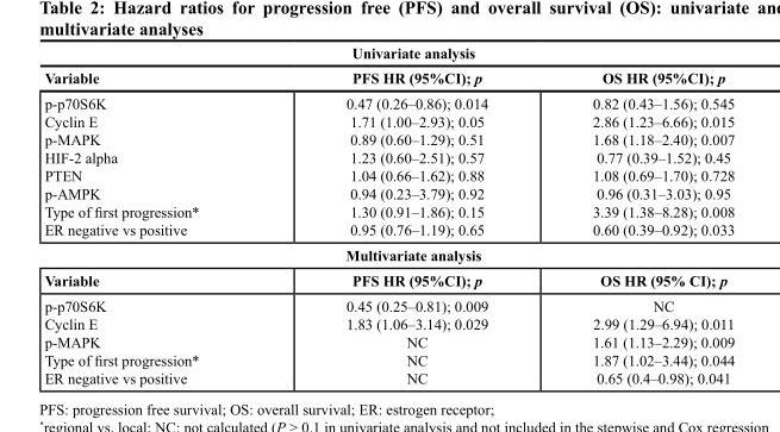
<table><thead><tr><td colspan="3">Univariate analysis</td></tr><tr><td>Variable</td><td>PFS HR (95%CI); p</td><td>OS HR (95%CI); p</td></tr></thead><tbody><tr><td>p-p70S6K Cyclin E p-MAPK HIF-2 alpha PTEN p-AMPK Type of first progression* ER negative vs positive</td><td>0.47 (0.26–0.86); 0.014 1.71 (1.00–2.93); 0.05 0.89 (0.60–1.29); 0.51 1.23 (0.60–2.51); 0.57 1.04 (0.66–1.62); 0.88 0.94 (0.23–3.79); 0.92 1.30 (0.91–1.86); 0.15 0.95 (0.76–1.19); 0.65</td><td>0.82 (0.43–1.56); 0.545 2.86 (1.23–6.66); 0.015 1.68 (1.18–2.40); 0.007 0.77 (0.39–1.52); 0.45 1.08 (0.69–1.70); 0.728 0.96 (0.31–3.03); 0.95 3.39 (1.38–8.28); 0.008 0.60 (0.39–0.92); 0.033</td></tr><tr><td colspan="3">Multivariate analysis</td></tr><tr><td>Variable</td><td>PFS HR (95%CI); p</td><td>OS HR (95% CI); p</td></tr><tr><td>p-p70S6K Cyclin E p-MAPK Type of first progression* ER negative vs positive</td><td>0.45 (0.25–0.81); 0.009 1.83 (1.06–3.14); 0.029 NC NC NC</td><td>NC 2.99 (1.29–6.94); 0.011 1.61 (1.13–2.29); 0.009 1.87 (1.02–3.44); 0.044 0.65 (0.4–0.98); 0.041</td></tr></tbody></table>